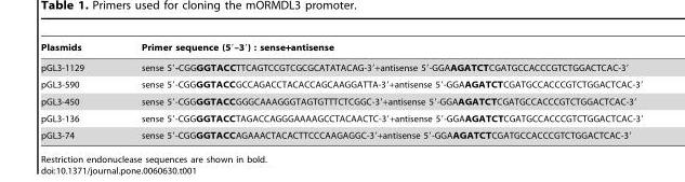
<table><thead><tr><td>Plasmids</td><td>Primer sequence (5′–3′) : sense+antisense</td></tr></thead><tbody><tr><td>pGL3-1129</td><td>sense 5′-CGGGGTACCTTCAGTCCGTCGCGCATATACAG-3′+antisense 5′-GGAAGATCTCGATGCCACCCGTCTGGACTCAC-3′</td></tr><tr><td>pGL3-590</td><td>sense 5′-CGGGGTACCGCCAGACCTACACCAGCAAGGATTA-3′+antisense 5′-GGAAGATCTCGATGCCACCCGTCTGGACTCAC-3′</td></tr><tr><td>pGL3-450</td><td>sense 5′-CGGGGTACCGGGCAAAGGGTAGTGTTTCTCGGC-3′+antisense 5′-GGAAGATCTCGATGCCACCCGTCTGGACTCAC-3′</td></tr><tr><td>pGL3-136</td><td>sense 5′-CGGGGTACCTAGACCAGGGAAAAGCCTACAACTC-3′+antisense 5′-GGAAGATCTCGATGCCACCCGTCTGGACTCAC-3′</td></tr><tr><td>pGL3-74</td><td>sense 5′-CGGGGTACCAGAAACTACACTTCCCAAGAGGC-3′+antisense 5′-GGAAGATCTCGATGCCACCCGTCTGGACTCAC-3′</td></tr></tbody></table>